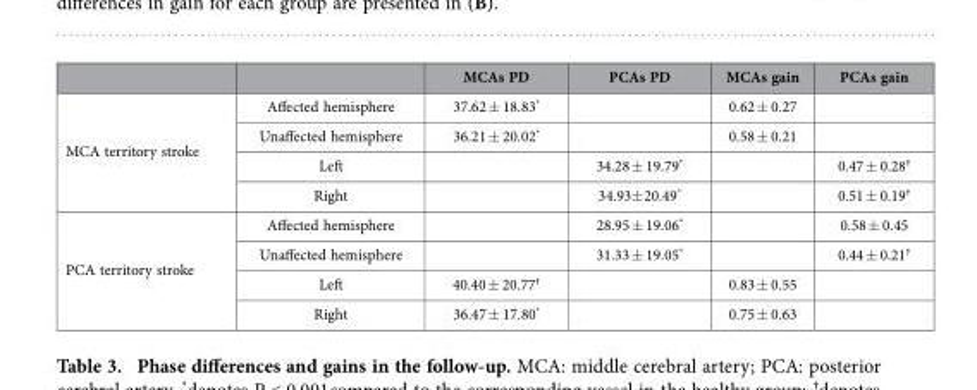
<table><thead><tr><td></td><td></td><td>MCAs PD</td><td>PCAs PD</td><td>MCAs gain</td><td>PCAs gain</td></tr></thead><tbody><tr><td rowspan="4">MCA territory stroke</td><td>Affected hemisphere</td><td>37.62 ± 18.83*</td><td></td><td>0.62 ± 0.27</td><td></td></tr><tr><td>Unaffected hemisphere</td><td>36.21 ± 20.02*</td><td></td><td>0.58 ± 0.21</td><td></td></tr><tr><td>Left</td><td></td><td>34.28 ± 19.79*</td><td></td><td>0.47 ± 0.28†</td></tr><tr><td>Right</td><td></td><td>34.93± 20.49*</td><td></td><td>0.51 ± 0.19†</td></tr><tr><td rowspan="4">PCA territory stroke</td><td>Affected hemisphere</td><td></td><td>28.95 ± 19.06*</td><td></td><td>0.58 ± 0.45</td></tr><tr><td>Unaffected hemisphere</td><td></td><td>31.33 ± 19.05*</td><td></td><td>0.44 ± 0.21†</td></tr><tr><td>Left</td><td>40.40 ± 20.77†</td><td></td><td>0.83 ± 0.55</td><td></td></tr><tr><td>Right</td><td>36.47 ± 17.80*</td><td></td><td>0.75 ± 0.63</td><td></td></tr></tbody></table>